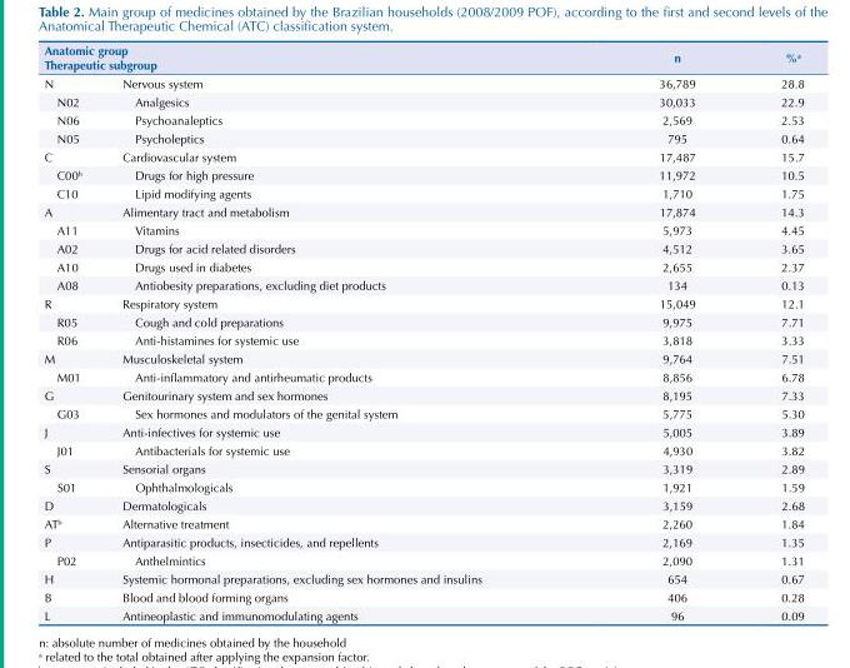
<table><thead><tr><td colspan="2">Anatomic group Therapeutic subgroup</td><td rowspan="2">n 36,789</td><td rowspan="2">%<sup>a</sup> 28.8</td></tr><tr><td>N</td><td>Nervous system</td></tr></thead><tbody><tr><td>N02</td><td>Analgesics</td><td>30,033</td><td>22.9</td></tr><tr><td>N06</td><td>Psychoanaleptics</td><td>2,569</td><td>2.53</td></tr><tr><td>N05</td><td>Psycholeptics</td><td>795</td><td>0.64</td></tr><tr><td>C</td><td>Cardiovascular system</td><td>17,487</td><td>15.7</td></tr><tr><td>C00<sup>b</sup></td><td>Drugs for high pressure</td><td>11,972</td><td>10.5</td></tr><tr><td>C10</td><td>Lipid modifying agents</td><td>1,710</td><td>1.75</td></tr><tr><td>A</td><td>Alimentary tract and metabolism</td><td>17,874</td><td>14.3</td></tr><tr><td>A11</td><td>Vitamins</td><td>5,973</td><td>4.45</td></tr><tr><td>A02</td><td>Drugs for acid related disorders</td><td>4,512</td><td>3.65</td></tr><tr><td>A10</td><td>Drugs used in diabetes</td><td>2,655</td><td>2.37</td></tr><tr><td>A08</td><td>Antiobesity preparations, excluding diet products</td><td>134</td><td>0.13</td></tr><tr><td>R</td><td>Respiratory system</td><td>15,049</td><td>12.1</td></tr><tr><td>R05</td><td>Cough and cold preparations</td><td>9,975</td><td>7.71</td></tr><tr><td>R06</td><td>Anti-histamines for systemic use</td><td>3,818</td><td>3.33</td></tr><tr><td>M</td><td>Musculoskeletal system</td><td>9,764</td><td>7.51</td></tr><tr><td>M01</td><td>Anti-inflammatory and antirheumatic products</td><td>8,856</td><td>6.78</td></tr><tr><td>G</td><td>Genitourinary system and sex hormones</td><td>8,195</td><td>7.33</td></tr><tr><td>G03</td><td>Sex hormones and modulators of the genital system</td><td>5,775</td><td>5.30</td></tr><tr><td>J</td><td>Anti-infectives for systemic use</td><td>5,005</td><td>3.89</td></tr><tr><td>J01</td><td>Antibacterials for systemic use</td><td>4,930</td><td>3.82</td></tr><tr><td>S</td><td>Sensorial organs</td><td>3,319</td><td>2.89</td></tr><tr><td>S01</td><td>Ophthalmologicals</td><td>1,921</td><td>1.59</td></tr><tr><td>D</td><td>Dermatologicals</td><td>3,159</td><td>2.68</td></tr><tr><td>AT<sup>b</sup></td><td>Alternative treatment</td><td>2,260</td><td>1.84</td></tr><tr><td>P</td><td>Antiparasitic products, insecticides, and repellents</td><td>2,169</td><td>1.35</td></tr><tr><td>P02</td><td>Anthelmintics</td><td>2,090</td><td>1.31</td></tr><tr><td>H</td><td>Systemic hormonal preparations, excluding sex hormones and insulins</td><td>654</td><td>0.67</td></tr><tr><td>B</td><td>Blood and blood forming organs</td><td>406</td><td>0.28</td></tr><tr><td>L</td><td>Antineoplastic and immunomodulating agents</td><td>96</td><td>0.09</td></tr></tbody></table>